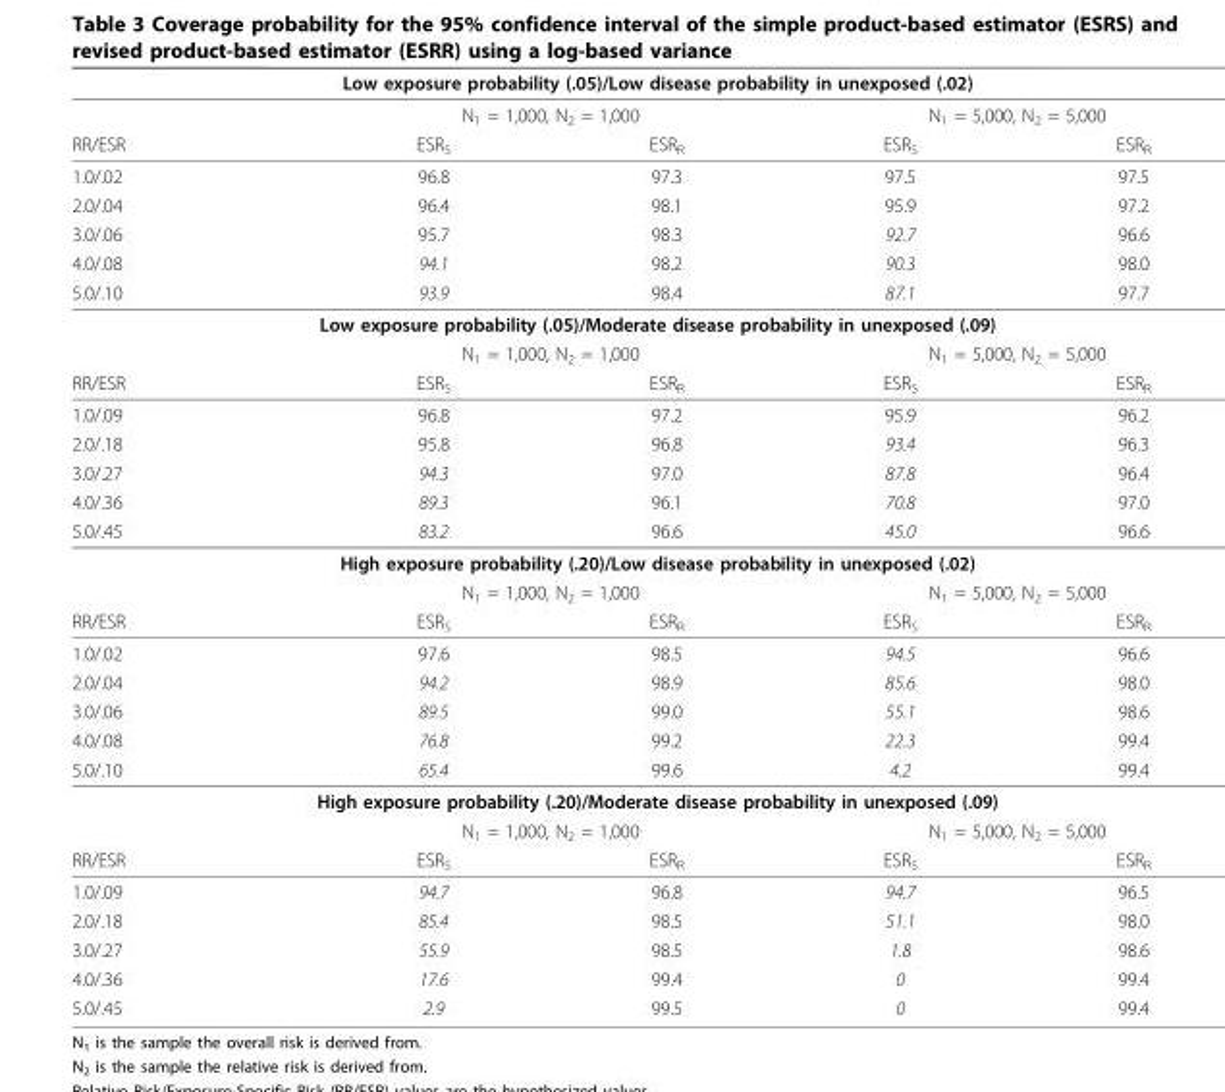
<table><thead><tr><td colspan="5">Low exposure probability (.05)/Low disease probability in unexposed (.02)</td></tr><tr><td rowspan="2">RR/ESR</td><td colspan="2">N<sub>1</sub> = 1,000, N<sub>2</sub> = 1,000</td><td colspan="2">N<sub>1</sub> = 5,000, N<sub>2</sub> = 5,000</td></tr><tr><td>ESR<sub>S</sub></td><td>ESR<sub>R</sub></td><td>ESR<sub>S</sub></td><td>ESR<sub>R</sub></td></tr></thead><tbody><tr><td>1.0/.02</td><td>96.8</td><td>97.3</td><td>97.5</td><td>97.5</td></tr><tr><td>2.0/.04</td><td>96.4</td><td>98.1</td><td>95.9</td><td>97.2</td></tr><tr><td>3.0/.06</td><td>95.7</td><td>98.3</td><td>92.7</td><td>96.6</td></tr><tr><td>4.0/.08</td><td>94.1</td><td>98.2</td><td>90.3</td><td>98.0</td></tr><tr><td>5.0/.10</td><td>93.9</td><td>98.4</td><td>87.1</td><td>97.7</td></tr><tr><td colspan="5">Low exposure probability (.05)/Moderate disease probability in unexposed (.09)</td></tr><tr><td></td><td colspan="2">N<sub>1</sub> = 1,000, N<sub>2</sub> = 1,000</td><td colspan="2">N<sub>1</sub> = 5,000, N<sub>2</sub> = 5,000</td></tr><tr><td>RR/ESR</td><td>ESR<sub>S</sub></td><td>ESR<sub>R</sub></td><td>ESR<sub>S</sub></td><td>ESR<sub>R</sub></td></tr><tr><td>1.0/.09</td><td>96.8</td><td>97.2</td><td>95.9</td><td>96.2</td></tr><tr><td>2.0/.18</td><td>95.8</td><td>96.8</td><td>93.4</td><td>96.3</td></tr><tr><td>3.0/.27</td><td>94.3</td><td>97.0</td><td>87.8</td><td>96.4</td></tr><tr><td>4.0/.36</td><td>89.3</td><td>96.1</td><td>70.8</td><td>97.0</td></tr><tr><td>5.0/.45</td><td>83.2</td><td>96.6</td><td>45.0</td><td>96.6</td></tr><tr><td colspan="5">High exposure probability (.20)/Low disease probability in unexposed (.02)</td></tr><tr><td></td><td colspan="2">N<sub>1</sub> = 1,000, N<sub>2</sub> = 1,000</td><td colspan="2">N<sub>1</sub> = 5,000, N<sub>2</sub> = 5,000</td></tr><tr><td>RR/ESR</td><td>ESR<sub>S</sub></td><td>ESR<sub>R</sub></td><td>ESR<sub>S</sub></td><td>ESR<sub>R</sub></td></tr><tr><td>1.0/.02</td><td>97.6</td><td>98.5</td><td>94.5</td><td>96.6</td></tr><tr><td>2.0/.04</td><td>94.2</td><td>98.9</td><td>85.6</td><td>98.0</td></tr><tr><td>3.0/.06</td><td>89.5</td><td>99.0</td><td>55.1</td><td>98.6</td></tr><tr><td>4.0/.08</td><td>76.8</td><td>99.2</td><td>22.3</td><td>99.4</td></tr><tr><td>5.0/.10</td><td>65.4</td><td>99.6</td><td>4.2</td><td>99.4</td></tr><tr><td colspan="5">High exposure probability (.20)/Moderate disease probability in unexposed (.09)</td></tr><tr><td></td><td colspan="2">N<sub>1</sub> = 1,000, N<sub>2</sub> = 1,000</td><td colspan="2">N<sub>1</sub> = 5,000, N<sub>2</sub> = 5,000</td></tr><tr><td>RR/ESR</td><td>ESR<sub>S</sub></td><td>ESR<sub>R</sub></td><td>ESR<sub>S</sub></td><td>ESR<sub>R</sub></td></tr><tr><td>1.0/.09</td><td>94.7</td><td>96.8</td><td>94.7</td><td>96.5</td></tr><tr><td>2.0/.18</td><td>85.4</td><td>98.5</td><td>51.1</td><td>98.0</td></tr><tr><td>3.0/.27</td><td>55.9</td><td>98.5</td><td>1.8</td><td>98.6</td></tr><tr><td>4.0/.36</td><td>17.6</td><td>99.4</td><td>0</td><td>99.4</td></tr><tr><td>5.0/.45</td><td>2.9</td><td>99.5</td><td>0</td><td>99.4</td></tr></tbody></table>